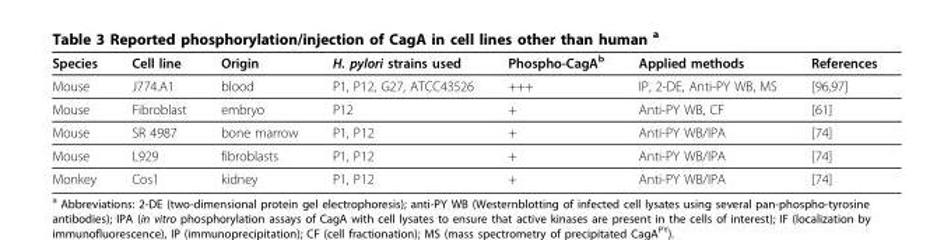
<table><thead><tr><td>Species</td><td>Cell line</td><td>Origin</td><td>H. pylori strains used</td><td>Phospho-CagA<sup>b</sup></td><td>Applied methods</td><td>References</td></tr></thead><tbody><tr><td>Mouse</td><td>J774.A1</td><td>blood</td><td>P1, P12, G27, ATCC43526</td><td>+++</td><td>IP, 2-DE, Anti-PY WB, MS</td><td>[96,97]</td></tr><tr><td>Mouse</td><td>Fibroblast</td><td>embryo</td><td>P12</td><td>+</td><td>Anti-PY WB, CF</td><td>[61]</td></tr><tr><td>Mouse</td><td>SR 4987</td><td>bone marrow</td><td>P1, P12</td><td>+</td><td>Anti-PY WB/IPA</td><td>[74]</td></tr><tr><td>Mouse</td><td>L929</td><td>fibroblasts</td><td>P1, P12</td><td>+</td><td>Anti-PY WB/IPA</td><td>[74]</td></tr><tr><td>Monkey</td><td>Cos1</td><td>kidney</td><td>P1, P12</td><td>+</td><td>Anti-PY WB/IPA</td><td>[74]</td></tr></tbody></table>